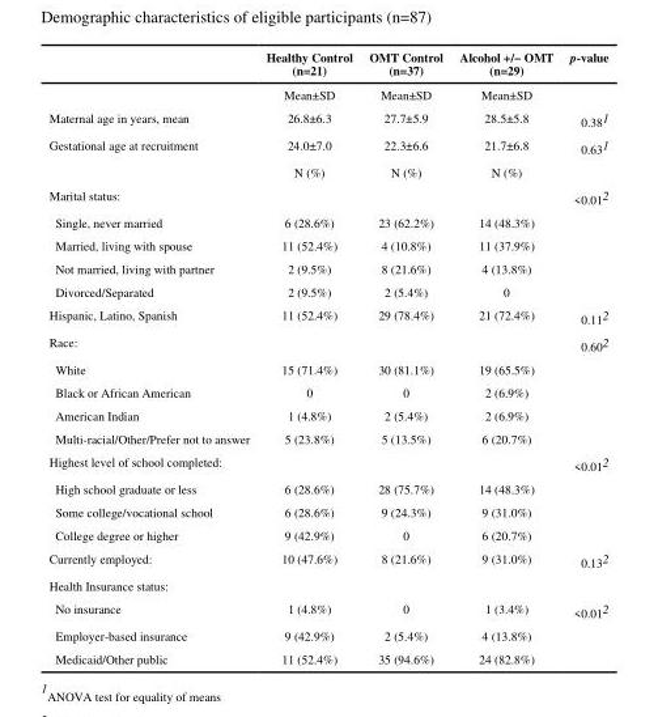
<table><thead><tr><td></td><td>Healthy Control (n=21)</td><td>OMT Control (n=37)</td><td>Alcohol +/− OMT (n=29)</td><td>p-value</td></tr></thead><tbody><tr><td></td><td>Mean±SD</td><td>Mean±SD</td><td>Mean±SD</td><td></td></tr><tr><td>Maternal age in years, mean</td><td>26.8±6.3</td><td>27.7±5.9</td><td>28.5±5.8</td><td>0.38<sup>1</sup></td></tr><tr><td rowspan="2">Gestational age at recruitment</td><td>24.0±7.0</td><td>22.3±6.6</td><td>21.7±6.8</td><td>0.63<sup>1</sup></td></tr><tr><td>N (%)</td><td>N (%)</td><td>N (%)</td><td></td></tr><tr><td>Marital status:</td><td></td><td></td><td></td><td>&lt;0.01<sup>2</sup></td></tr><tr><td>Single, never married</td><td>6 (28.6%)</td><td>23 (62.2%)</td><td>14 (48.3%)</td><td></td></tr><tr><td>Married, living with spouse</td><td>11 (52.4%)</td><td>4 (10.8%)</td><td>11 (37.9%)</td><td></td></tr><tr><td>Not married, living with partner</td><td>2 (9.5%)</td><td>8 (21.6%)</td><td>4 (13.8%)</td><td></td></tr><tr><td>Divorced/Separated</td><td>2 (9.5%)</td><td>2 (5.4%)</td><td>0</td><td></td></tr><tr><td>Hispanic, Latino, Spanish</td><td>11 (52.4%)</td><td>29 (78.4%)</td><td>21 (72.4%)</td><td>0.11<sup>2</sup></td></tr><tr><td>Race:</td><td></td><td></td><td></td><td>0.60<sup>2</sup></td></tr><tr><td>White</td><td>15 (71.4%)</td><td>30 (81.1%)</td><td>19 (65.5%)</td><td></td></tr><tr><td>Black or African American</td><td>0</td><td>0</td><td>2 (6.9%)</td><td></td></tr><tr><td>American Indian</td><td>1 (4.8%)</td><td>2 (5.4%)</td><td>2 (6.9%)</td><td></td></tr><tr><td>Multi-racial/Other/Prefer not to answer</td><td>5 (23.8%)</td><td>5 (13.5%)</td><td>6 (20.7%)</td><td></td></tr><tr><td>Highest level of school completed:</td><td></td><td></td><td></td><td>&lt;0.01<sup>2</sup></td></tr><tr><td>High school graduate or less</td><td>6 (28.6%)</td><td>28 (75.7%)</td><td>14 (48.3%)</td><td></td></tr><tr><td>Some college/vocational school</td><td>6 (28.6%)</td><td>9 (24.3%)</td><td>9 (31.0%)</td><td></td></tr><tr><td>College degree or higher</td><td>9 (42.9%)</td><td>0</td><td>6 (20.7%)</td><td></td></tr><tr><td>Currently employed:</td><td>10 (47.6%)</td><td>8 (21.6%)</td><td>9 (31.0%)</td><td>0.13<sup>2</sup></td></tr><tr><td colspan="5">Health Insurance status:</td></tr><tr><td>No insurance</td><td>1 (4.8%)</td><td>0</td><td>1 (3.4%)</td><td>&lt;0.01<sup>2</sup></td></tr><tr><td>Employer-based insurance</td><td>9 (42.9%)</td><td>2 (5.4%)</td><td>4 (13.8%)</td><td></td></tr><tr><td>Medicaid/Other public</td><td>11 (52.4%)</td><td>35 (94.6%)</td><td>24 (82.8%)</td><td></td></tr></tbody></table>